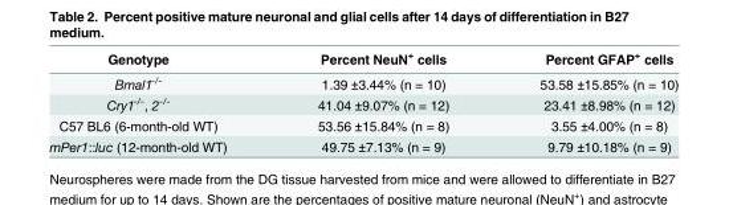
<table><thead><tr><td>Genotype</td><td>Percent NeuN<sup>+</sup> cells</td><td>Percent GFAP<sup>+</sup> cells</td></tr></thead><tbody><tr><td>Bmal1<sup>-/-</sup></td><td>1.39 ±3.44% (n = 10)</td><td>53.58 ±15.85% (n = 10)</td></tr><tr><td>Cry1<sup>-/-</sup>, 2<sup>-/-</sup></td><td>41.04 ±9.07% (n = 12)</td><td>23.41 ±8.98% (n = 12)</td></tr><tr><td>C57 BL6 (6-month-old WT)</td><td>53.56 ±15.84% (n = 8)</td><td>3.55 ±4.00% (n = 8)</td></tr><tr><td>mPer1::luc (12-month-old WT)</td><td>49.75 ±7.13% (n = 9)</td><td>9.79 ±10.18% (n = 9)</td></tr></tbody></table>